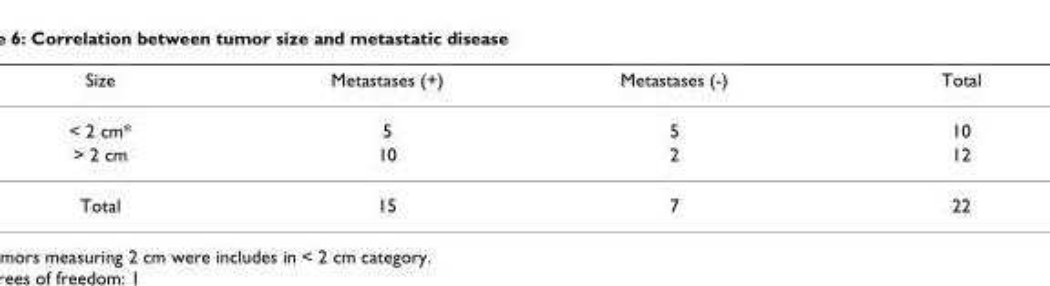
<table><thead><tr><td>Size</td><td>Metastases (+)</td><td>Metastases (-)</td><td>Total</td></tr></thead><tbody><tr><td>&lt; 2 cm*</td><td>5</td><td>5</td><td>10</td></tr><tr><td>&gt; 2 cm</td><td>10</td><td>2</td><td>12</td></tr><tr><td>Total</td><td>15</td><td>7</td><td>22</td></tr></tbody></table>